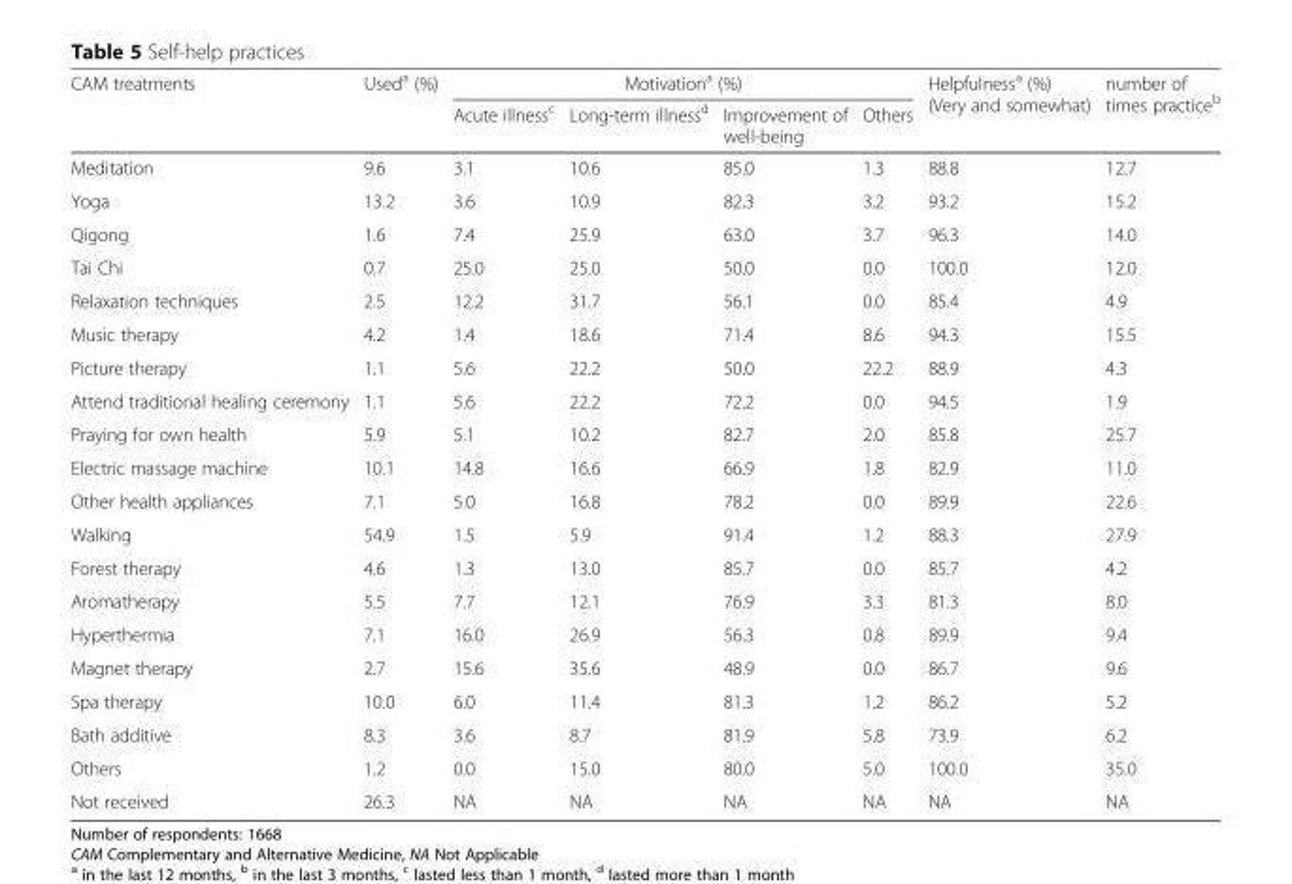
<table><thead><tr><td rowspan="2">CAM treatments</td><td rowspan="2">Used<sup>a</sup> (%)</td><td colspan="4">Motivation<sup>a</sup> (%)</td><td rowspan="2">Helpfulness<sup>a</sup> (%) (Very and somewhat)</td><td rowspan="2">number of times practice<sup>b</sup></td></tr><tr><td>Acute illness<sup>c</sup></td><td>Long-term illness<sup>d</sup></td><td>Improvement of well-being</td><td>Others</td></tr></thead><tbody><tr><td>Meditation</td><td>9.6</td><td>3.1</td><td>10.6</td><td>85.0</td><td>1.3</td><td>88.8</td><td>12.7</td></tr><tr><td>Yoga</td><td>13.2</td><td>3.6</td><td>10.9</td><td>82.3</td><td>3.2</td><td>93.2</td><td>15.2</td></tr><tr><td>Qigong</td><td>1.6</td><td>7.4</td><td>25.9</td><td>63.0</td><td>3.7</td><td>96.3</td><td>14.0</td></tr><tr><td>Tai Chi</td><td>0.7</td><td>25.0</td><td>25.0</td><td>50.0</td><td>0.0</td><td>100.0</td><td>12.0</td></tr><tr><td>Relaxation techniques</td><td>2.5</td><td>12.2</td><td>31.7</td><td>56.1</td><td>0.0</td><td>85.4</td><td>4.9</td></tr><tr><td>Music therapy</td><td>4.2</td><td>1.4</td><td>18.6</td><td>71.4</td><td>8.6</td><td>94.3</td><td>15.5</td></tr><tr><td>Picture therapy</td><td>1.1</td><td>5.6</td><td>22.2</td><td>50.0</td><td>22.2</td><td>88.9</td><td>4.3</td></tr><tr><td>Attend traditional healing ceremony</td><td>1.1</td><td>5.6</td><td>22.2</td><td>72.2</td><td>0.0</td><td>94.5</td><td>1.9</td></tr><tr><td>Praying for own health</td><td>5.9</td><td>5.1</td><td>10.2</td><td>82.7</td><td>2.0</td><td>85.8</td><td>25.7</td></tr><tr><td>Electric massage machine</td><td>10.1</td><td>14.8</td><td>16.6</td><td>66.9</td><td>1.8</td><td>82.9</td><td>11.0</td></tr><tr><td>Other health appliances</td><td>7.1</td><td>5.0</td><td>16.8</td><td>78.2</td><td>0.0</td><td>89.9</td><td>22.6</td></tr><tr><td>Walking</td><td>54.9</td><td>1.5</td><td>5.9</td><td>91.4</td><td>1.2</td><td>88.3</td><td>27.9</td></tr><tr><td>Forest therapy</td><td>4.6</td><td>1.3</td><td>13.0</td><td>85.7</td><td>0.0</td><td>85.7</td><td>4.2</td></tr><tr><td>Aromatherapy</td><td>5.5</td><td>7.7</td><td>12.1</td><td>76.9</td><td>3.3</td><td>81.3</td><td>8.0</td></tr><tr><td>Hyperthermia</td><td>7.1</td><td>16.0</td><td>26.9</td><td>56.3</td><td>0.8</td><td>89.9</td><td>9.4</td></tr><tr><td>Magnet therapy</td><td>2.7</td><td>15.6</td><td>35.6</td><td>48.9</td><td>0.0</td><td>86.7</td><td>9.6</td></tr><tr><td>Spa therapy</td><td>10.0</td><td>6.0</td><td>11.4</td><td>81.3</td><td>1.2</td><td>86.2</td><td>5.2</td></tr><tr><td>Bath additive</td><td>8.3</td><td>3.6</td><td>8.7</td><td>81.9</td><td>5.8</td><td>73.9</td><td>6.2</td></tr><tr><td>Others</td><td>1.2</td><td>0.0</td><td>15.0</td><td>80.0</td><td>5.0</td><td>100.0</td><td>35.0</td></tr><tr><td>Not received</td><td>26.3</td><td>NA</td><td>NA</td><td>NA</td><td>NA</td><td>NA</td><td>NA</td></tr></tbody></table>